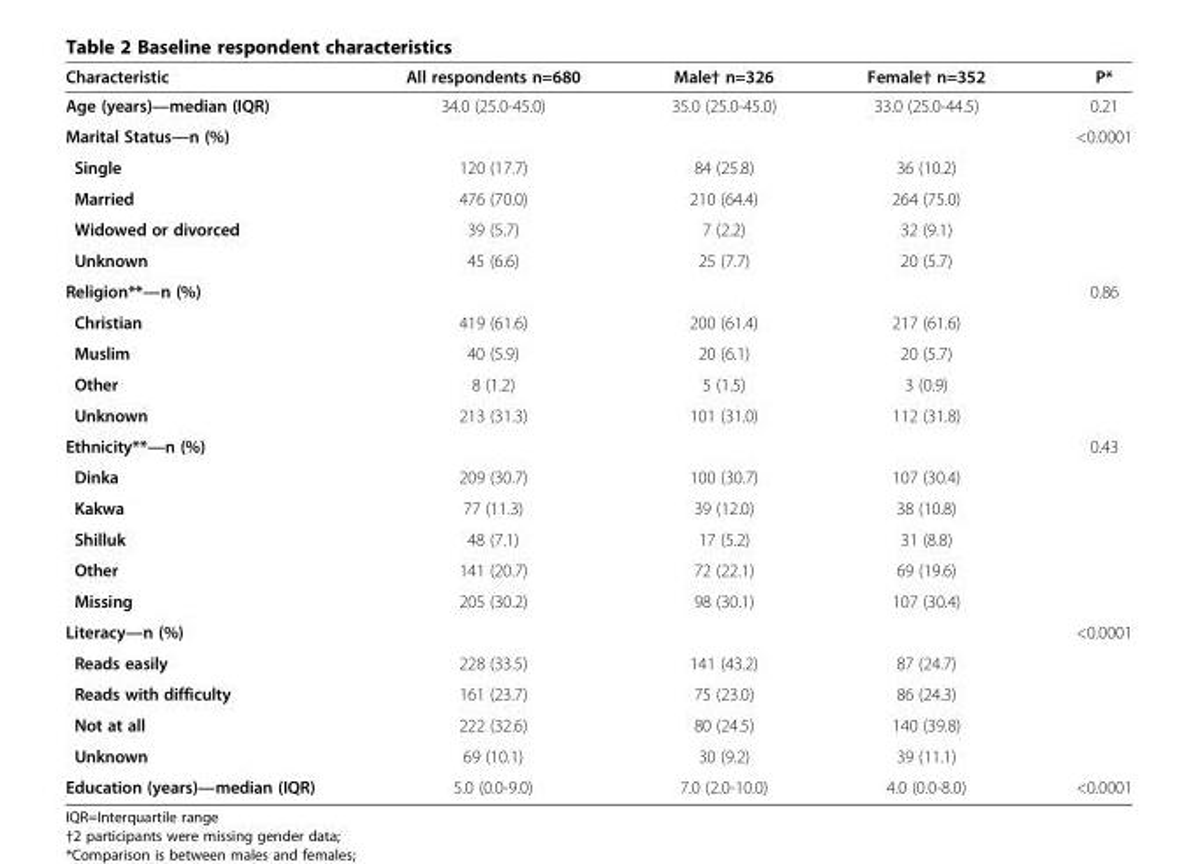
<table><thead><tr><td>Characteristic</td><td>All respondents n=680</td><td>Male† n=326</td><td>Female† n=352</td><td>P*</td></tr></thead><tbody><tr><td>Age (years)—median (IQR)</td><td>34.0 (25.0-45.0)</td><td>35.0 (25.0-45.0)</td><td>33.0 (25.0-44.5)</td><td>0.21</td></tr><tr><td>Marital Status—n (%)</td><td></td><td></td><td></td><td>&lt;0.0001</td></tr><tr><td>Single</td><td>120 (17.7)</td><td>84 (25.8)</td><td>36 (10.2)</td><td></td></tr><tr><td>Married</td><td>476 (70.0)</td><td>210 (64.4)</td><td>264 (75.0)</td><td></td></tr><tr><td>Widowed or divorced</td><td>39 (5.7)</td><td>7 (2.2)</td><td>32 (9.1)</td><td></td></tr><tr><td>Unknown</td><td>45 (6.6)</td><td>25 (7.7)</td><td>20 (5.7)</td><td></td></tr><tr><td>Religion**—n (%)</td><td></td><td></td><td></td><td>0.86</td></tr><tr><td>Christian</td><td>419 (61.6)</td><td>200 (61.4)</td><td>217 (61.6)</td><td></td></tr><tr><td>Muslim</td><td>40 (5.9)</td><td>20 (6.1)</td><td>20 (5.7)</td><td></td></tr><tr><td>Other</td><td>8 (1.2)</td><td>5 (1.5)</td><td>3 (0.9)</td><td></td></tr><tr><td>Unknown</td><td>213 (31.3)</td><td>101 (31.0)</td><td>112 (31.8)</td><td></td></tr><tr><td>Ethnicity**—n (%)</td><td></td><td></td><td></td><td>0.43</td></tr><tr><td>Dinka</td><td>209 (30.7)</td><td>100 (30.7)</td><td>107 (30.4)</td><td></td></tr><tr><td>Kakwa</td><td>77 (11.3)</td><td>39 (12.0)</td><td>38 (10.8)</td><td></td></tr><tr><td>Shilluk</td><td>48 (7.1)</td><td>17 (5.2)</td><td>31 (8.8)</td><td></td></tr><tr><td>Other</td><td>141 (20.7)</td><td>72 (22.1)</td><td>69 (19.6)</td><td></td></tr><tr><td>Missing</td><td>205 (30.2)</td><td>98 (30.1)</td><td>107 (30.4)</td><td></td></tr><tr><td>Literacy—n (%)</td><td></td><td></td><td></td><td>&lt;0.0001</td></tr><tr><td>Reads easily</td><td>228 (33.5)</td><td>141 (43.2)</td><td>87 (24.7)</td><td></td></tr><tr><td>Reads with difficulty</td><td>161 (23.7)</td><td>75 (23.0)</td><td>86 (24.3)</td><td></td></tr><tr><td>Not at all</td><td>222 (32.6)</td><td>80 (24.5)</td><td>140 (39.8)</td><td></td></tr><tr><td>Unknown</td><td>69 (10.1)</td><td>30 (9.2)</td><td>39 (11.1)</td><td></td></tr><tr><td>Education (years)—median (IQR)</td><td>5.0 (0.0-9.0)</td><td>7.0 (2.0-10.0)</td><td>4.0 (0.0-8.0)</td><td>&lt;0.0001</td></tr></tbody></table>